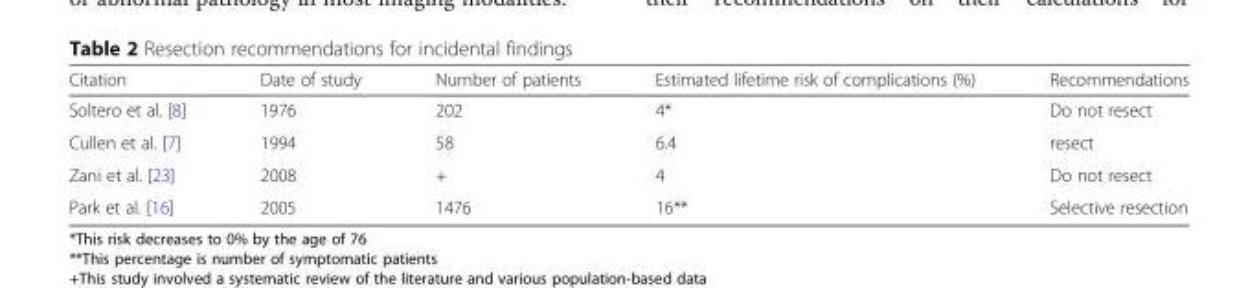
<table><thead><tr><td>Citation</td><td>Date of study</td><td>Number of patients</td><td>Estimated lifetime risk of complications (%)</td><td>Recommendations</td></tr></thead><tbody><tr><td>Soltero et al. [8]</td><td>1976</td><td>202</td><td>4*</td><td>Do not resect</td></tr><tr><td>Cullen et al. [7]</td><td>1994</td><td>58</td><td>6.4</td><td>resect</td></tr><tr><td>Zani et al. [23]</td><td>2008</td><td>+</td><td>4</td><td>Do not resect</td></tr><tr><td>Park et al. [16]</td><td>2005</td><td>1476</td><td>16**</td><td>Selective resection</td></tr></tbody></table>